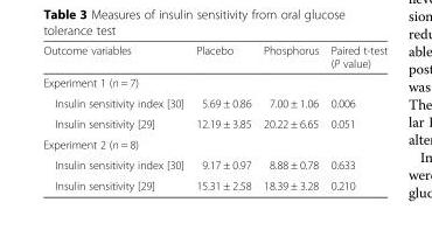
<table><thead><tr><td>Outcome variables</td><td>Placebo</td><td>Phosphorus</td><td>Paired t-test (P value)</td></tr></thead><tbody><tr><td colspan="4">Experiment 1 (n = 7)</td></tr><tr><td>Insulin sensitivity index [30]</td><td>5.69 ± 0.86</td><td>7.00 ± 1.06</td><td>0.006</td></tr><tr><td>Insulin sensitivity [29]</td><td>12.19 ± 3.85</td><td>20.22 ± 6.65</td><td>0.051</td></tr><tr><td colspan="4">Experiment 2 (n = 8)</td></tr><tr><td>Insulin sensitivity index [30]</td><td>9.17 ± 0.97</td><td>8.88 ± 0.78</td><td>0.633</td></tr><tr><td>Insulin sensitivity [29]</td><td>15.31 ± 2.58</td><td>18.39 ± 3.28</td><td>0.210</td></tr></tbody></table>